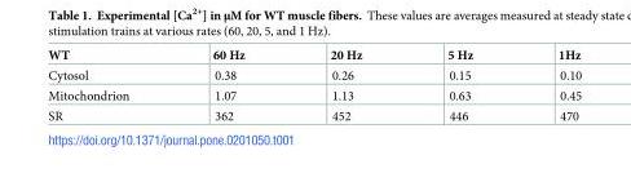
<table><thead><tr><td>WT</td><td>60 Hz</td><td>20 Hz</td><td>5 Hz</td><td>1Hz</td></tr></thead><tbody><tr><td>Cytosol</td><td>0.38</td><td>0.26</td><td>0.15</td><td>0.10</td></tr><tr><td>Mitochondrion</td><td>1.07</td><td>1.13</td><td>0.63</td><td>0.45</td></tr><tr><td>SR</td><td>362</td><td>452</td><td>446</td><td>470</td></tr></tbody></table>